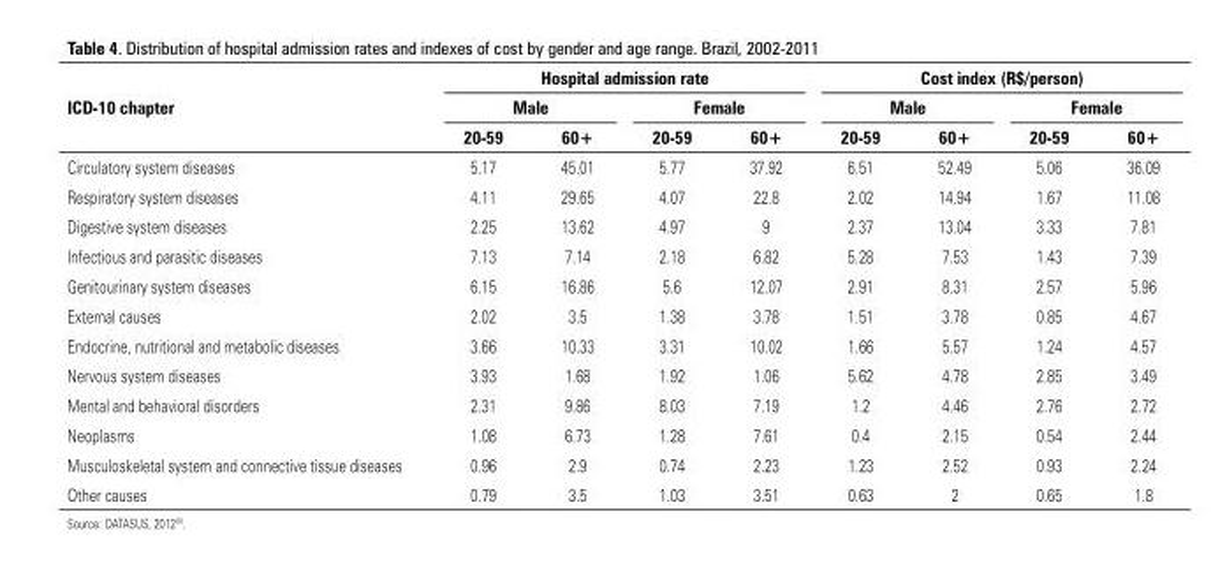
<table><thead><tr><td rowspan="3">icd-10 chapter</td><td colspan="4">Hospital admission rate</td><td colspan="4">cost index (R$/person)</td></tr><tr><td colspan="2">male</td><td colspan="2">Female</td><td colspan="2">male</td><td colspan="2">Female</td></tr><tr><td>20-59</td><td>60+</td><td>20-59</td><td>60+</td><td>20-59</td><td>60+</td><td>20-59</td><td>60+</td></tr></thead><tbody><tr><td>Circulatory system diseases</td><td>5.17</td><td>45.01</td><td>5.77</td><td>37.92</td><td>6.51</td><td>52.49</td><td>5.06</td><td>36.09</td></tr><tr><td>Respiratory system diseases</td><td>4.11</td><td>29.65</td><td>4.07</td><td>22.8</td><td>2.02</td><td>14.94</td><td>1.67</td><td>11.08</td></tr><tr><td>Digestive system diseases</td><td>2.25</td><td>13.62</td><td>4.97</td><td>9</td><td>2.37</td><td>13.04</td><td>3.33</td><td>7.81</td></tr><tr><td>Infectious and parasitic diseases</td><td>7.13</td><td>7.14</td><td>2.18</td><td>6.82</td><td>5.28</td><td>7.53</td><td>1.43</td><td>7.39</td></tr><tr><td>Genitourinary system diseases</td><td>6.15</td><td>16.86</td><td>5.6</td><td>12.07</td><td>2.91</td><td>8.31</td><td>2.57</td><td>5.96</td></tr><tr><td>External causes</td><td>2.02</td><td>3.5</td><td>1.38</td><td>3.78</td><td>1.51</td><td>3.78</td><td>0.85</td><td>4.67</td></tr><tr><td>Endocrine, nutritional and metabolic diseases</td><td>3.66</td><td>10.33</td><td>3.31</td><td>10.02</td><td>1.66</td><td>5.57</td><td>1.24</td><td>4.57</td></tr><tr><td>Nervous system diseases</td><td>3.93</td><td>1.68</td><td>1.92</td><td>1.06</td><td>5.62</td><td>4.78</td><td>2.85</td><td>3.49</td></tr><tr><td>Mental and behavioral disorders</td><td>2.31</td><td>9.86</td><td>8.03</td><td>7.19</td><td>1.2</td><td>4.46</td><td>2.76</td><td>2.72</td></tr><tr><td>Neoplasms</td><td>1.08</td><td>6.73</td><td>1.28</td><td>7.61</td><td>0.4</td><td>2.15</td><td>0.54</td><td>2.44</td></tr><tr><td>Musculoskeletal system and connective tissue diseases</td><td>0.96</td><td>2.9</td><td>0.74</td><td>2.23</td><td>1.23</td><td>2.52</td><td>0.93</td><td>2.24</td></tr><tr><td>Other causes</td><td>0.79</td><td>3.5</td><td>1.03</td><td>3.51</td><td>0.63</td><td>2</td><td>0.65</td><td>1.8</td></tr></tbody></table>